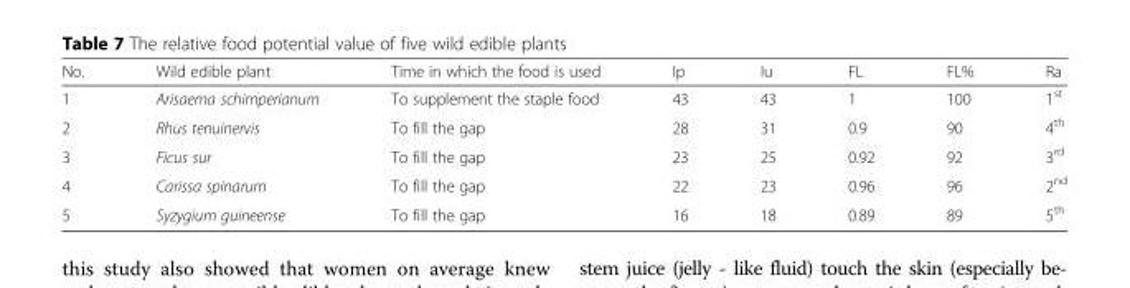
<table><thead><tr><td>No.</td><td>Wild edible plant</td><td>Time in which the food is used</td><td>Ip</td><td>Iu</td><td>FL</td><td>FL%</td><td>Ra</td></tr></thead><tbody><tr><td>1</td><td>Arisaema schimperianum</td><td>To supplement the staple food</td><td>43</td><td>43</td><td>1</td><td>100</td><td>1<sup>st</sup></td></tr><tr><td>2</td><td>Rhus tenuinervis</td><td>To fill the gap</td><td>28</td><td>31</td><td>0.9</td><td>90</td><td>4<sup>th</sup></td></tr><tr><td>3</td><td>Ficus sur</td><td>To fill the gap</td><td>23</td><td>25</td><td>0.92</td><td>92</td><td>3<sup>rd</sup></td></tr><tr><td>4</td><td>Carissa spinarum</td><td>To fill the gap</td><td>22</td><td>23</td><td>0.96</td><td>96</td><td>2<sup>nd</sup></td></tr><tr><td>5</td><td>Syzygium guineense</td><td>To fill the gap</td><td>16</td><td>18</td><td>0.89</td><td>89</td><td>5<sup>th</sup></td></tr></tbody></table>